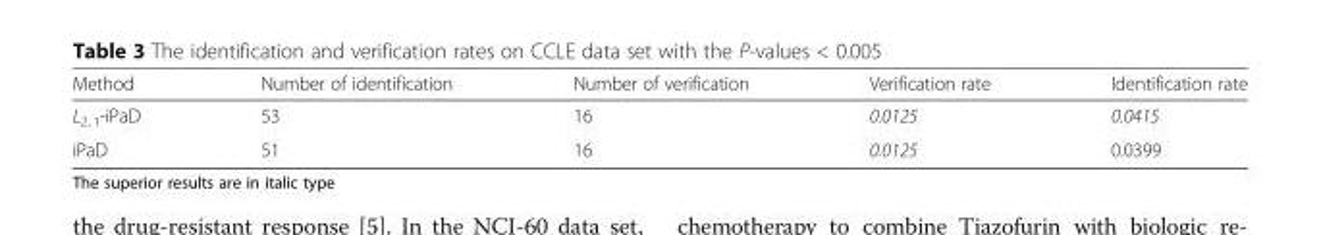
<table><thead><tr><td>Method</td><td>Number of identification</td><td>Number of verification</td><td>Verification rate</td><td>Identification rate</td></tr></thead><tbody><tr><td>L<sub>2, 1</sub>-iPaD</td><td>53</td><td>16</td><td>0.0125</td><td>0.0415</td></tr><tr><td>iPaD</td><td>51</td><td>16</td><td>0.0125</td><td>0.0399</td></tr></tbody></table>